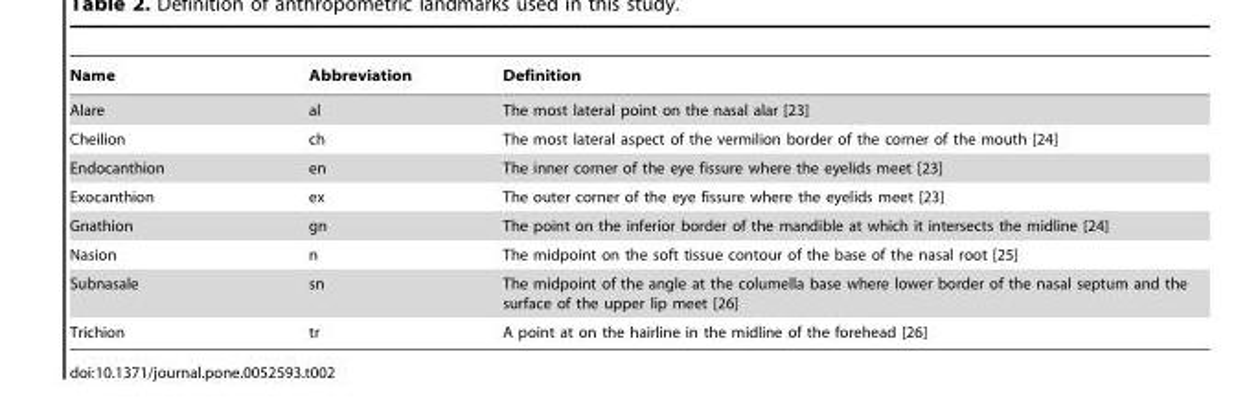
<table><thead><tr><td>Name</td><td>Abbreviation</td><td>Definition</td></tr></thead><tbody><tr><td>Alare</td><td>al</td><td>The most lateral point on the nasal alar [23]</td></tr><tr><td>Cheilion</td><td>ch</td><td>The most lateral aspect of the vermilion border of the corner of the mouth [24]</td></tr><tr><td>Endocanthion</td><td>en</td><td>The inner corner of the eye fissure where the eyelids meet [23]</td></tr><tr><td>Exocanthion</td><td>ex</td><td>The outer corner of the eye fissure where the eyelids meet [23]</td></tr><tr><td>Gnathion</td><td>gn</td><td>The point on the inferior border of the mandible at which it intersects the midline [24]</td></tr><tr><td>Nasion</td><td>n</td><td>The midpoint on the soft tissue contour of the base of the nasal root [25]</td></tr><tr><td>Subnasale</td><td>sn</td><td>The midpoint of the angle at the columella base where lower border of the nasal septum and the surface of the upper lip meet [26]</td></tr><tr><td>Trichion</td><td>tr</td><td>A point at on the hairline in the midline of the forehead [26]</td></tr></tbody></table>